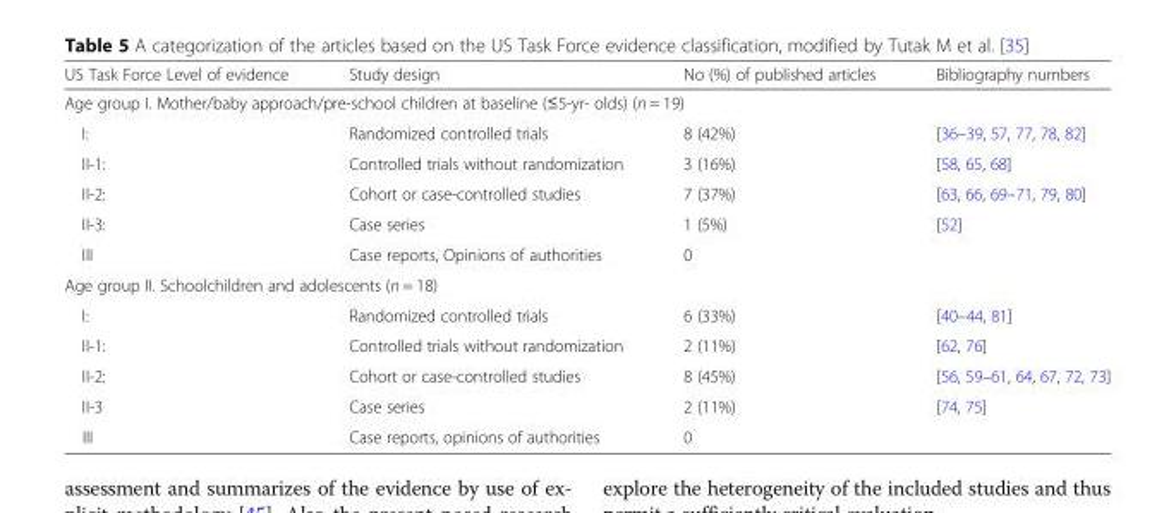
<table><thead><tr><td>US Task Force Level of evidence</td><td>Study design</td><td>No (%) of published articles</td><td>Bibliography numbers</td></tr></thead><tbody><tr><td colspan="4">Age group I. Mother/baby approach/pre-school children at baseline (≤5-yr- olds) (n = 19)</td></tr><tr><td>I:</td><td>Randomized controlled trials</td><td>8 (42%)</td><td>[36–39, 57, 77, 78, 82]</td></tr><tr><td>II-1:</td><td>Controlled trials without randomization</td><td>3 (16%)</td><td>[58, 65, 68]</td></tr><tr><td>II-2:</td><td>Cohort or case-controlled studies</td><td>7 (37%)</td><td>[63, 66, 69–71, 79, 80]</td></tr><tr><td>II-3:</td><td>Case series</td><td>1 (5%)</td><td>[52]</td></tr><tr><td>III</td><td>Case reports, Opinions of authorities</td><td>0</td><td></td></tr><tr><td colspan="4">Age group II. Schoolchildren and adolescents (n = 18)</td></tr><tr><td>I:</td><td>Randomized controlled trials</td><td>6 (33%)</td><td>[40–44, 81]</td></tr><tr><td>II-1:</td><td>Controlled trials without randomization</td><td>2 (11%)</td><td>[62, 76]</td></tr><tr><td>II-2:</td><td>Cohort or case-controlled studies</td><td>8 (45%)</td><td>[56, 59–61, 64, 67, 72, 73]</td></tr><tr><td>II-3</td><td>Case series</td><td>2 (11%)</td><td>[74, 75]</td></tr><tr><td>III</td><td>Case reports, opinions of authorities</td><td>0</td><td></td></tr></tbody></table>